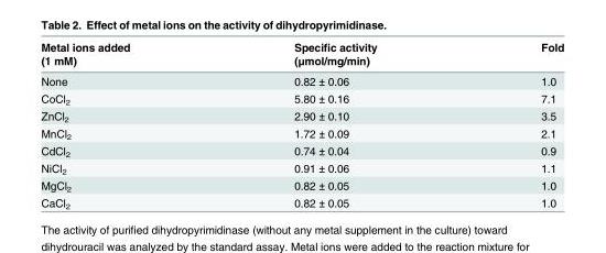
<table><thead><tr><td rowspan="2">Metal ions added (1 mM)</td><td rowspan="2">Specific activity (μmol/mg/min)</td><td rowspan="2">Fold</td></tr><tr></tr></thead><tbody><tr><td>None</td><td>0.82 ± 0.06</td><td>1.0</td></tr><tr><td>CoCl<sub>2</sub></td><td>5.80 ± 0.16</td><td>7.1</td></tr><tr><td>ZnCl<sub>2</sub></td><td>2.90 ± 0.10</td><td>3.5</td></tr><tr><td>MnCl<sub>2</sub></td><td>1.72 ± 0.09</td><td>2.1</td></tr><tr><td>CdCl<sub>2</sub></td><td>0.74 ± 0.04</td><td>0.9</td></tr><tr><td>NiCl<sub>2</sub></td><td>0.91 ± 0.06</td><td>1.1</td></tr><tr><td>MgCl<sub>2</sub></td><td>0.82 ± 0.05</td><td>1.0</td></tr><tr><td>CaCl<sub>2</sub></td><td>0.82 ± 0.05</td><td>1.0</td></tr></tbody></table>